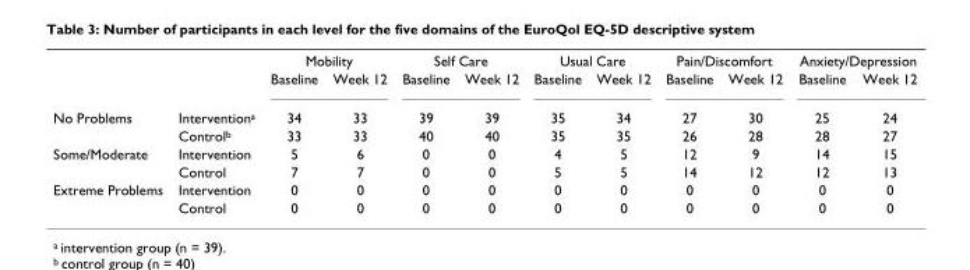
<table><thead><tr><td rowspan="2"></td><td rowspan="2"></td><td colspan="2">Mobility</td><td colspan="2">Self Care</td><td colspan="2">Usual Care</td><td colspan="2">Pain/Discomfort</td><td colspan="2">Anxiety/Depression</td></tr><tr><td>Baseline</td><td>Week 12</td><td>Baseline</td><td>Week 12</td><td>Baseline</td><td>Week 12</td><td>Baseline</td><td>Week 12</td><td>Baseline</td><td>Week 12</td></tr></thead><tbody><tr><td rowspan="2">No Problems</td><td>Intervention<sup>a</sup></td><td>34</td><td>33</td><td>39</td><td>39</td><td>35</td><td>34</td><td>27</td><td>30</td><td>25</td><td>24</td></tr><tr><td>Control<sup>b</sup></td><td>33</td><td>33</td><td>40</td><td>40</td><td>35</td><td>35</td><td>26</td><td>28</td><td>28</td><td>27</td></tr><tr><td rowspan="2">Some/Moderate</td><td>Intervention</td><td>5</td><td>6</td><td>0</td><td>0</td><td>4</td><td>5</td><td>12</td><td>9</td><td>14</td><td>15</td></tr><tr><td>Control</td><td>7</td><td>7</td><td>0</td><td>0</td><td>5</td><td>5</td><td>14</td><td>12</td><td>12</td><td>13</td></tr><tr><td rowspan="2">Extreme Problems</td><td>Intervention</td><td>0</td><td>0</td><td>0</td><td>0</td><td>0</td><td>0</td><td>0</td><td>0</td><td>0</td><td>0</td></tr><tr><td>Control</td><td>0</td><td>0</td><td>0</td><td>0</td><td>0</td><td>0</td><td>0</td><td>0</td><td>0</td><td>0</td></tr></tbody></table>